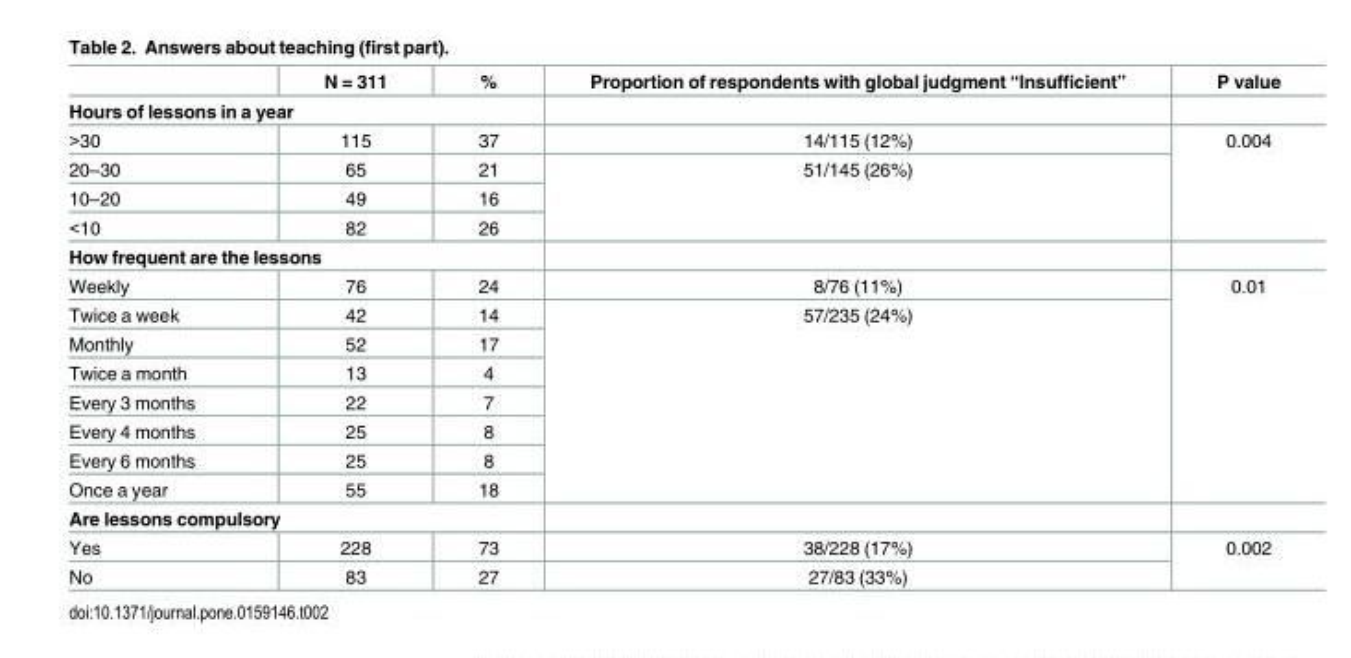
<table><thead><tr><td></td><td>N = 311</td><td>%</td><td>Proportion of respondents with global judgment “Insufficient”</td><td>P value</td></tr></thead><tbody><tr><td colspan="5">Hours of lessons in a year</td></tr><tr><td>&gt;30</td><td>115</td><td>37</td><td>14/115 (12%)</td><td rowspan="4">0.004</td></tr><tr><td>20–30</td><td>65</td><td>21</td><td rowspan="3">51/145 (26%)</td></tr><tr><td>10–20</td><td>49</td><td>16</td></tr><tr><td>&lt;10</td><td>82</td><td>26</td></tr><tr><td colspan="5">How frequent are the lessons</td></tr><tr><td>Weekly</td><td>76</td><td>24</td><td>8/76 (11%)</td><td rowspan="8">0.01</td></tr><tr><td>Twice a week</td><td>42</td><td>14</td><td rowspan="7">57/235 (24%)</td></tr><tr><td>Monthly</td><td>52</td><td>17</td></tr><tr><td>Twice a month</td><td>13</td><td>4</td></tr><tr><td>Every 3 months</td><td>22</td><td>7</td></tr><tr><td>Every 4 months</td><td>25</td><td>8</td></tr><tr><td>Every 6 months</td><td>25</td><td>8</td></tr><tr><td>Once a year</td><td>55</td><td>18</td></tr><tr><td colspan="5">Are lessons compulsory</td></tr><tr><td>Yes</td><td>228</td><td>73</td><td>38/228 (17%)</td><td rowspan="2">0.002</td></tr><tr><td>No</td><td>83</td><td>27</td><td>27/83 (33%)</td></tr></tbody></table>